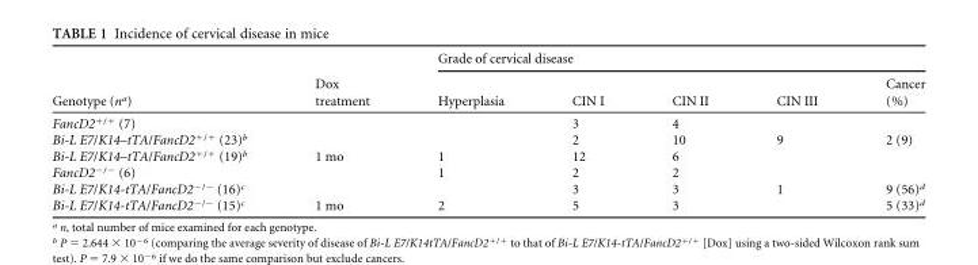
<table><thead><tr><td rowspan="2">Genotype (n<sup>a</sup>)</td><td rowspan="2">Dox treatment</td><td colspan="5">Grade of cervical disease</td></tr><tr><td>Hyperplasia</td><td>CIN I</td><td>CIN II</td><td>CIN III</td><td>Cancer (%)</td></tr></thead><tbody><tr><td>FancD2<sup>+/+</sup> (7)</td><td></td><td></td><td>3</td><td>4</td><td></td><td></td></tr><tr><td>Bi-L E7/K14–tTA/FancD2<sup>+/+</sup> (23)<sup>b</sup></td><td></td><td></td><td>2</td><td>10</td><td>9</td><td>2 (9)</td></tr><tr><td>Bi-L E7/K14–tTA/FancD2<sup>+/+</sup> (19)<sup>b</sup></td><td>1 mo</td><td>1</td><td>12</td><td>6</td><td></td><td></td></tr><tr><td>FancD2<sup>−/−</sup> (6)</td><td></td><td>1</td><td>2</td><td>2</td><td></td><td></td></tr><tr><td>Bi-L E7/K14-tTA/FancD2<sup>−/−</sup> (16)<sup>c</sup></td><td></td><td></td><td>3</td><td>3</td><td>1</td><td>9 (56)<sup>d</sup></td></tr><tr><td>Bi-L E7/K14-tTA/FancD2<sup>−/−</sup> (15)<sup>c</sup></td><td>1 mo</td><td>2</td><td>5</td><td>3</td><td></td><td>5 (33)<sup>d</sup></td></tr></tbody></table>